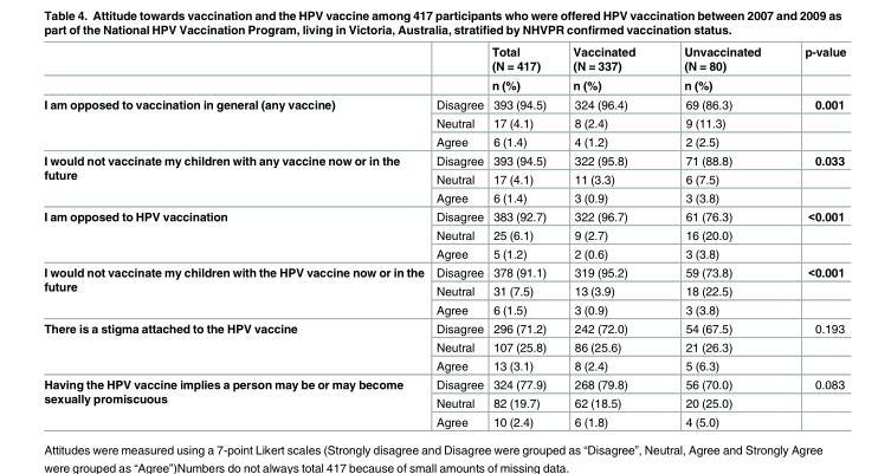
<table><thead><tr><td rowspan="2"></td><td rowspan="2"></td><td rowspan="2">Total (N = 417) n (%)</td><td rowspan="2">Vaccinated (N = 337) n (%)</td><td rowspan="2">Unvaccinated (N = 80) n (%)</td><td rowspan="2">p-value</td></tr><tr></tr></thead><tbody><tr><td rowspan="3">I am opposed to vaccination in general (any vaccine)</td><td>Disagree</td><td>393 (94.5)</td><td>324 (96.4)</td><td>69 (86.3)</td><td>0.001</td></tr><tr><td>Neutral</td><td>17 (4.1)</td><td>8 (2.4)</td><td>9 (11.3)</td><td></td></tr><tr><td>Agree</td><td>6 (1.4)</td><td>4 (1.2)</td><td>2 (2.5)</td><td></td></tr><tr><td rowspan="3">I would not vaccinate my children with any vaccine now or in the future</td><td>Disagree</td><td>393 (94.5)</td><td>322 (95.8)</td><td>71 (88.8)</td><td>0.033</td></tr><tr><td>Neutral</td><td>17 (4.1)</td><td>11 (3.3)</td><td>6 (7.5)</td><td></td></tr><tr><td>Agree</td><td>6 (1.4)</td><td>3 (0.9)</td><td>3 (3.8)</td><td></td></tr><tr><td rowspan="3">I am opposed to HPV vaccination</td><td>Disagree</td><td>383 (92.7)</td><td>322 (96.7)</td><td>61 (76.3)</td><td>&lt;0.001</td></tr><tr><td>Neutral</td><td>25 (6.1)</td><td>9 (2.7)</td><td>16 (20.0)</td><td></td></tr><tr><td>Agree</td><td>5 (1.2)</td><td>2 (0.6)</td><td>3 (3.8)</td><td></td></tr><tr><td rowspan="3">I would not vaccinate my children with the HPV vaccine now or in the future</td><td>Disagree</td><td>378 (91.1)</td><td>319 (95.2)</td><td>59 (73.8)</td><td>&lt;0.001</td></tr><tr><td>Neutral</td><td>31 (7.5)</td><td>13 (3.9)</td><td>18 (22.5)</td><td></td></tr><tr><td>Agree</td><td>6 (1.5)</td><td>3 (0.9)</td><td>3 (3.8)</td><td></td></tr><tr><td rowspan="3">There is a stigma attached to the HPV vaccine</td><td>Disagree</td><td>296 (71.2)</td><td>242 (72.0)</td><td>54 (67.5)</td><td>0.193</td></tr><tr><td>Neutral</td><td>107 (25.8)</td><td>86 (25.6)</td><td>21 (26.3)</td><td></td></tr><tr><td>Agree</td><td>13 (3.1)</td><td>8 (2.4)</td><td>5 (6.3)</td><td></td></tr><tr><td rowspan="3">Having the HPV vaccine implies a person may be or may become sexually promiscuous</td><td>Disagree</td><td>324 (77.9)</td><td>268 (79.8)</td><td>56 (70.0)</td><td>0.083</td></tr><tr><td>Neutral</td><td>82 (19.7)</td><td>62 (18.5)</td><td>20 (25.0)</td><td></td></tr><tr><td>Agree</td><td>10 (2.4)</td><td>6 (1.8)</td><td>4 (5.0)</td><td></td></tr></tbody></table>